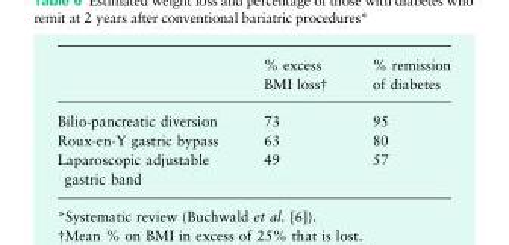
<table><thead><tr><td></td><td>% excess BMI loss†</td><td>% remission of diabetes</td></tr></thead><tbody><tr><td>Bilio-pancreatic diversion</td><td>73</td><td>95</td></tr><tr><td>Roux-en-Y gastric bypass</td><td>63</td><td>80</td></tr><tr><td>Laparoscopic adjustable gastric band</td><td>49</td><td>57</td></tr></tbody></table>